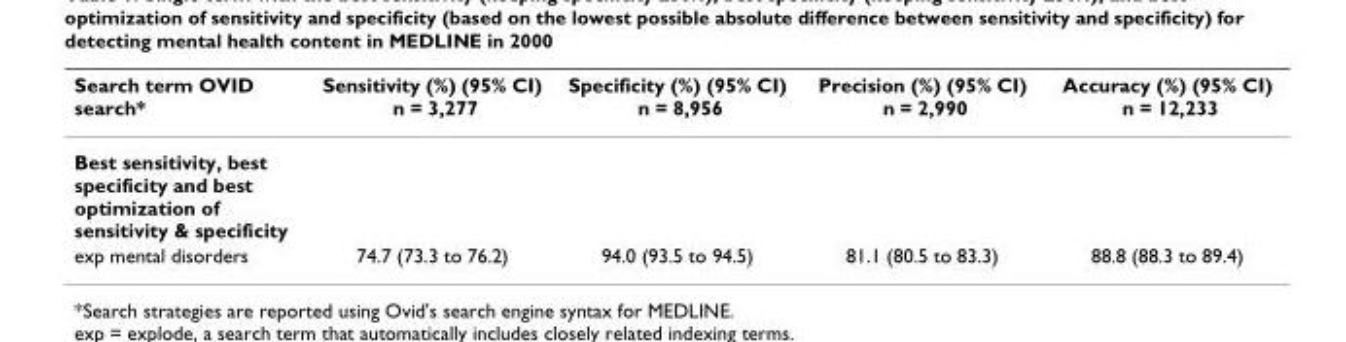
<table><thead><tr><td>Search term OVID search*</td><td>Sensitivity (%) (95% CI) n = 3,277</td><td>Specificity (%) (95% CI) n = 8,956</td><td>Precision (%) (95% CI) n = 2,990</td><td>Accuracy (%) (95% CI) n = 12,233</td></tr></thead><tbody><tr><td colspan="5">Best sensitivity, best specificity and best optimization of sensitivity &amp; specificity</td></tr><tr><td>exp mental disorders</td><td>74.7 (73.3 to 76.2)</td><td>94.0 (93.5 to 94.5)</td><td>81.1 (80.5 to 83.3)</td><td>88.8 (88.3 to 89.4)</td></tr></tbody></table>